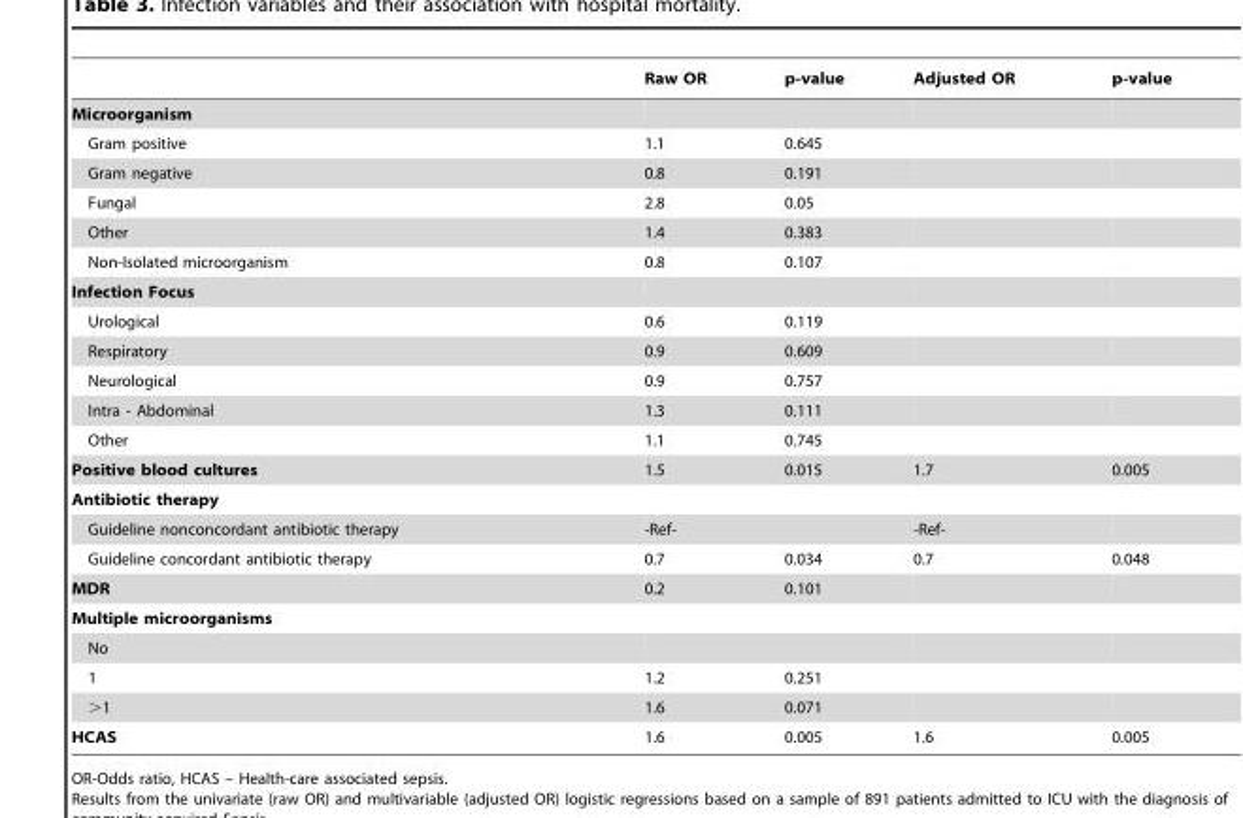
<table><thead><tr><td></td><td>Raw OR</td><td>p-value</td><td>Adjusted OR</td><td>p-value</td></tr></thead><tbody><tr><td colspan="5">Microorganism</td></tr><tr><td>Gram positive</td><td>1.1</td><td>0.645</td><td></td><td></td></tr><tr><td>Gram negative</td><td>0.8</td><td>0.191</td><td></td><td></td></tr><tr><td>Fungal</td><td>2.8</td><td>0.05</td><td></td><td></td></tr><tr><td>Other</td><td>1.4</td><td>0.383</td><td></td><td></td></tr><tr><td>Non-Isolated microorganism</td><td>0.8</td><td>0.107</td><td></td><td></td></tr><tr><td colspan="5">Infection Focus</td></tr><tr><td>Urological</td><td>0.6</td><td>0.119</td><td></td><td></td></tr><tr><td>Respiratory</td><td>0.9</td><td>0.609</td><td></td><td></td></tr><tr><td>Neurological</td><td>0.9</td><td>0.757</td><td></td><td></td></tr><tr><td>Intra - Abdominal</td><td>1.3</td><td>0.111</td><td></td><td></td></tr><tr><td>Other</td><td>1.1</td><td>0.745</td><td></td><td></td></tr><tr><td>Positive blood cultures</td><td>1.5</td><td>0.015</td><td>1.7</td><td>0.005</td></tr><tr><td colspan="5">Antibiotic therapy</td></tr><tr><td>Guideline nonconcordant antibiotic therapy</td><td>-Ref-</td><td></td><td>-Ref-</td><td></td></tr><tr><td>Guideline concordant antibiotic therapy</td><td>0.7</td><td>0.034</td><td>0.7</td><td>0.048</td></tr><tr><td>MDR</td><td>0.2</td><td>0.101</td><td></td><td></td></tr><tr><td colspan="5">Multiple microorganisms</td></tr><tr><td colspan="5">No</td></tr><tr><td>1</td><td>1.2</td><td>0.251</td><td></td><td></td></tr><tr><td>&gt;1</td><td>1.6</td><td>0.071</td><td></td><td></td></tr><tr><td>HCAS</td><td>1.6</td><td>0.005</td><td>1.6</td><td>0.005</td></tr></tbody></table>